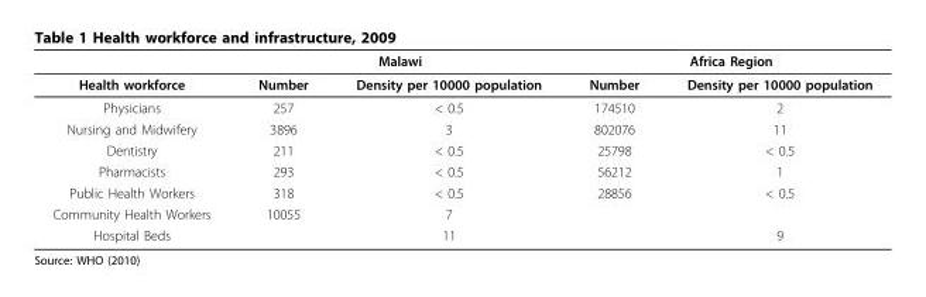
<table><thead><tr><td rowspan="2">Health workforce</td><td colspan="2">Malawi</td><td colspan="2">Africa Region</td></tr><tr><td>Number</td><td>Density per 10000 population</td><td>Number</td><td>Density per 10000 population</td></tr></thead><tbody><tr><td>Physicians</td><td>257</td><td>&lt; 0.5</td><td>174510</td><td>2</td></tr><tr><td>Nursing and Midwifery</td><td>3896</td><td>3</td><td>802076</td><td>11</td></tr><tr><td>Dentistry</td><td>211</td><td>&lt; 0.5</td><td>25798</td><td>&lt; 0.5</td></tr><tr><td>Pharmacists</td><td>293</td><td>&lt; 0.5</td><td>56212</td><td>1</td></tr><tr><td>Public Health Workers</td><td>318</td><td>&lt; 0.5</td><td>28856</td><td>&lt; 0.5</td></tr><tr><td>Community Health Workers</td><td>10055</td><td>7</td><td></td><td></td></tr><tr><td>Hospital Beds</td><td></td><td>11</td><td></td><td>9</td></tr></tbody></table>